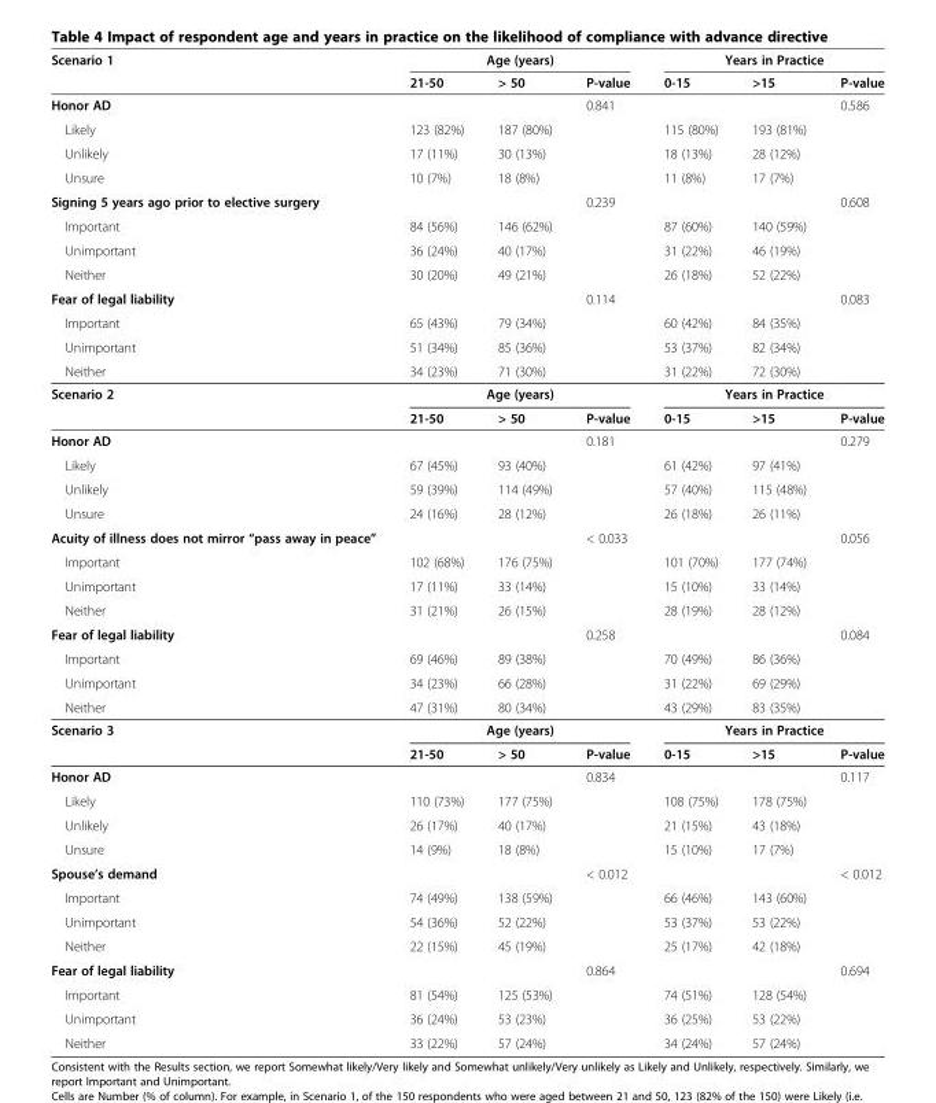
<table><thead><tr><td rowspan="2">Scenario 1</td><td colspan="3">Age (years)</td><td colspan="3">Years in Practice</td></tr><tr><td>21-50</td><td>&gt; 50</td><td>P-value</td><td>0-15</td><td>&gt;15</td><td>P-value</td></tr></thead><tbody><tr><td>Honor AD</td><td colspan="2"></td><td>0.841</td><td colspan="2"></td><td>0.586</td></tr><tr><td>Likely</td><td>123 (82%)</td><td>187 (80%)</td><td rowspan="3"></td><td>115 (80%)</td><td>193 (81%)</td><td rowspan="3"></td></tr><tr><td>Unlikely</td><td>17 (11%)</td><td>30 (13%)</td><td>18 (13%)</td><td>28 (12%)</td></tr><tr><td>Unsure</td><td>10 (7%)</td><td>18 (8%)</td><td>11 (8%)</td><td>17 (7%)</td></tr><tr><td>Signing 5 years ago prior to elective surgery</td><td colspan="2"></td><td>0.239</td><td colspan="2"></td><td>0.608</td></tr><tr><td>Important</td><td>84 (56%)</td><td>146 (62%)</td><td rowspan="3"></td><td>87 (60%)</td><td>140 (59%)</td><td rowspan="3"></td></tr><tr><td>Unimportant</td><td>36 (24%)</td><td>40 (17%)</td><td>31 (22%)</td><td>46 (19%)</td></tr><tr><td>Neither</td><td>30 (20%)</td><td>49 (21%)</td><td>26 (18%)</td><td>52 (22%)</td></tr><tr><td>Fear of legal liability</td><td colspan="2"></td><td>0.114</td><td colspan="2"></td><td>0.083</td></tr><tr><td>Important</td><td>65 (43%)</td><td>79 (34%)</td><td></td><td>60 (42%)</td><td>84 (35%)</td><td></td></tr><tr><td>Unimportant</td><td>51 (34%)</td><td>85 (36%)</td><td></td><td>53 (37%)</td><td>82 (34%)</td><td></td></tr><tr><td>Neither</td><td>34 (23%)</td><td>71 (30%)</td><td></td><td>31 (22%)</td><td>72 (30%)</td><td></td></tr><tr><td rowspan="2">Scenario 2</td><td colspan="3">Age (years)</td><td colspan="3">Years in Practice</td></tr><tr><td>21-50</td><td>&gt; 50</td><td>P-value</td><td>0-15</td><td>&gt;15</td><td>P-value</td></tr><tr><td>Honor AD</td><td colspan="2"></td><td>0.181</td><td colspan="2"></td><td>0.279</td></tr><tr><td>Likely</td><td>67 (45%)</td><td>93 (40%)</td><td rowspan="3"></td><td>61 (42%)</td><td>97 (41%)</td><td rowspan="3"></td></tr><tr><td>Unlikely</td><td>59 (39%)</td><td>114 (49%)</td><td>57 (40%)</td><td>115 (48%)</td></tr><tr><td>Unsure</td><td>24 (16%)</td><td>28 (12%)</td><td>26 (18%)</td><td>26 (11%)</td></tr><tr><td>Acuity of illness does not mirror “pass away in peace”</td><td colspan="2"></td><td>&lt; 0.033</td><td colspan="2"></td><td>0.056</td></tr><tr><td>Important</td><td>102 (68%)</td><td>176 (75%)</td><td rowspan="3"></td><td>101 (70%)</td><td>177 (74%)</td><td rowspan="3"></td></tr><tr><td>Unimportant</td><td>17 (11%)</td><td>33 (14%)</td><td>15 (10%)</td><td>33 (14%)</td></tr><tr><td>Neither</td><td>31 (21%)</td><td>26 (15%)</td><td>28 (19%)</td><td>28 (12%)</td></tr><tr><td>Fear of legal liability</td><td colspan="2"></td><td>0.258</td><td colspan="2"></td><td>0.084</td></tr><tr><td>Important</td><td>69 (46%)</td><td>89 (38%)</td><td></td><td>70 (49%)</td><td>86 (36%)</td><td></td></tr><tr><td>Unimportant</td><td>34 (23%)</td><td>66 (28%)</td><td></td><td>31 (22%)</td><td>69 (29%)</td><td></td></tr><tr><td>Neither</td><td>47 (31%)</td><td>80 (34%)</td><td></td><td>43 (29%)</td><td>83 (35%)</td><td></td></tr><tr><td rowspan="2">Scenario 3</td><td colspan="3">Age (years)</td><td colspan="3">Years in Practice</td></tr><tr><td>21-50</td><td>&gt; 50</td><td>P-value</td><td>0-15</td><td>&gt;15</td><td>P-value</td></tr><tr><td>Honor AD</td><td colspan="2"></td><td>0.834</td><td colspan="2"></td><td>0.117</td></tr><tr><td>Likely</td><td>110 (73%)</td><td>177 (75%)</td><td rowspan="3"></td><td>108 (75%)</td><td>178 (75%)</td><td rowspan="3"></td></tr><tr><td>Unlikely</td><td>26 (17%)</td><td>40 (17%)</td><td>21 (15%)</td><td>43 (18%)</td></tr><tr><td>Unsure</td><td>14 (9%)</td><td>18 (8%)</td><td>15 (10%)</td><td>17 (7%)</td></tr><tr><td>Spouse’s demand</td><td colspan="2"></td><td>&lt; 0.012</td><td colspan="2"></td><td>&lt; 0.012</td></tr><tr><td>Important</td><td>74 (49%)</td><td>138 (59%)</td><td rowspan="3"></td><td>66 (46%)</td><td>143 (60%)</td><td rowspan="3"></td></tr><tr><td>Unimportant</td><td>54 (36%)</td><td>52 (22%)</td><td>53 (37%)</td><td>53 (22%)</td></tr><tr><td>Neither</td><td>22 (15%)</td><td>45 (19%)</td><td>25 (17%)</td><td>42 (18%)</td></tr><tr><td>Fear of legal liability</td><td colspan="2"></td><td>0.864</td><td colspan="2"></td><td>0.694</td></tr><tr><td>Important</td><td>81 (54%)</td><td>125 (53%)</td><td rowspan="2"></td><td>74 (51%)</td><td>128 (54%)</td><td rowspan="2"></td></tr><tr><td>Unimportant</td><td>36 (24%)</td><td>53 (23%)</td><td>36 (25%)</td><td>53 (22%)</td></tr><tr><td>Neither</td><td>33 (22%)</td><td>57 (24%)</td><td></td><td>34 (24%)</td><td>57 (24%)</td><td></td></tr></tbody></table>